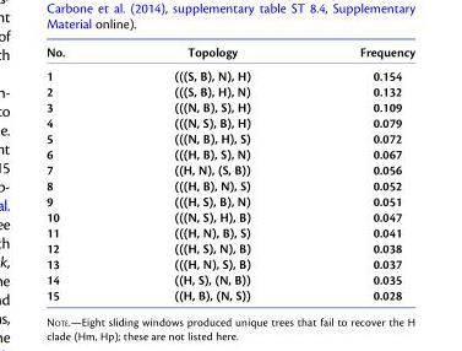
<table><thead><tr><td>No.</td><td>Topology</td><td>Frequency</td></tr></thead><tbody><tr><td>1</td><td>(((S, B), N), H)</td><td>0.154</td></tr><tr><td>2</td><td>(((S, B), H), N)</td><td>0.132</td></tr><tr><td>3</td><td>(((N, B), S), H)</td><td>0.109</td></tr><tr><td>4</td><td>(((N, S), B), H)</td><td>0.079</td></tr><tr><td>5</td><td>(((N, B), H), S)</td><td>0.072</td></tr><tr><td>6</td><td>(((H, B), S), N)</td><td>0.067</td></tr><tr><td>7</td><td>((H, N), (S, B))</td><td>0.056</td></tr><tr><td>8</td><td>(((H, B), N), S)</td><td>0.052</td></tr><tr><td>9</td><td>(((H, S), B), N)</td><td>0.051</td></tr><tr><td>10</td><td>(((N, S), H), B)</td><td>0.047</td></tr><tr><td>11</td><td>(((H, N), B), S)</td><td>0.041</td></tr><tr><td>12</td><td>(((H, S), N), B)</td><td>0.038</td></tr><tr><td>13</td><td>(((H, N), S), B)</td><td>0.037</td></tr><tr><td>14</td><td>((H, S), (N, B))</td><td>0.035</td></tr><tr><td>15</td><td>((H, B), (N, S))</td><td>0.028</td></tr></tbody></table>